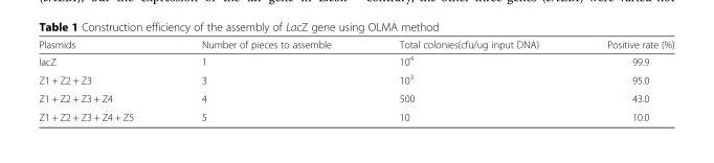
<table><thead><tr><td>Plasmids</td><td>Number of pieces to assemble</td><td>Total colonies(cfu/ug input DNA)</td><td>Positive rate (%)</td></tr></thead><tbody><tr><td>lacZ</td><td>1</td><td>10<sup>4</sup></td><td>99.9</td></tr><tr><td>Z1 + Z2 + Z3</td><td>3</td><td>10<sup>3</sup></td><td>95.0</td></tr><tr><td>Z1 + Z2 + Z3 + Z4</td><td>4</td><td>500</td><td>43.0</td></tr><tr><td>Z1 + Z2 + Z3 + Z4 + Z5</td><td>5</td><td>10</td><td>10.0</td></tr></tbody></table>